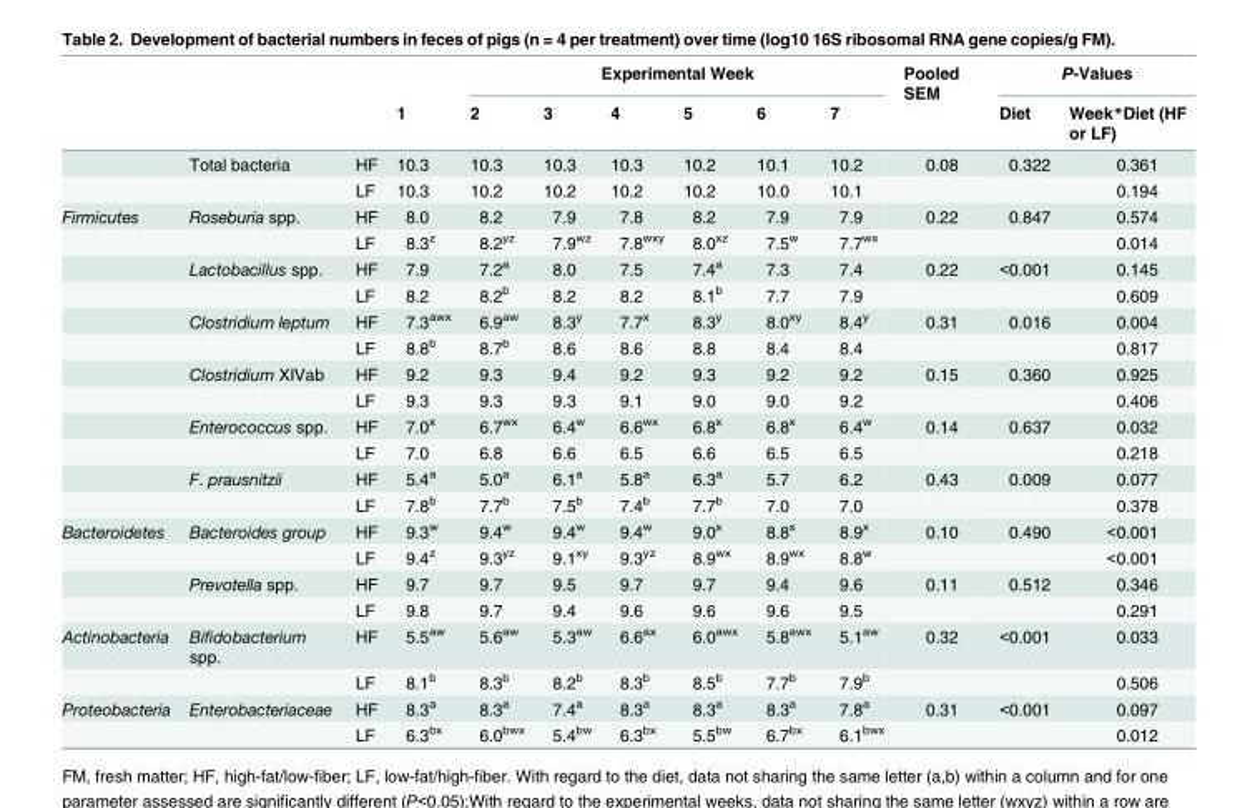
<table><thead><tr><td rowspan="2"></td><td rowspan="2"></td><td rowspan="2"></td><td rowspan="2">1</td><td colspan="6">Experimental Week</td><td rowspan="2">Pooled SEM</td><td colspan="2">P-Values</td></tr><tr><td>2</td><td>3</td><td>4</td><td>5</td><td>6</td><td>7</td><td>Diet</td><td>Week*Diet (HF or LF)</td></tr></thead><tbody><tr><td></td><td>Total bacteria</td><td>HF</td><td>10.3</td><td>10.3</td><td>10.3</td><td>10.3</td><td>10.2</td><td>10.1</td><td>10.2</td><td>0.08</td><td>0.322</td><td>0.361</td></tr><tr><td></td><td></td><td>LF</td><td>10.3</td><td>10.2</td><td>10.2</td><td>10.2</td><td>10.2</td><td>10.0</td><td>10.1</td><td></td><td></td><td>0.194</td></tr><tr><td rowspan="12">Firmicutes</td><td>Roseburia spp.</td><td>HF</td><td>8.0</td><td>8.2</td><td>7.9</td><td>7.8</td><td>8.2</td><td>7.9</td><td>7.9</td><td>0.22</td><td>0.847</td><td>0.574</td></tr><tr><td></td><td>LF</td><td>8.3<sup>z</sup></td><td>8.2<sup>yz</sup></td><td>7.9<sup>wz</sup></td><td>7.8<sup>wxy</sup></td><td>8.0<sup>xz</sup></td><td>7.5<sup>w</sup></td><td>7.7<sup>wx</sup></td><td></td><td></td><td>0.014</td></tr><tr><td>Lactobacillus spp.</td><td>HF</td><td>7.9</td><td>7.2<sup>a</sup></td><td>8.0</td><td>7.5</td><td>7.4<sup>a</sup></td><td>7.3</td><td>7.4</td><td>0.22</td><td>&lt;0.001</td><td>0.145</td></tr><tr><td></td><td>LF</td><td>8.2</td><td>8.2<sup>b</sup></td><td>8.2</td><td>8.2</td><td>8.1<sup>b</sup></td><td>7.7</td><td>7.9</td><td></td><td></td><td>0.609</td></tr><tr><td>Clostridium leptum</td><td>HF</td><td>7.3<sup>awx</sup></td><td>6.9<sup>aw</sup></td><td>8.3<sup>y</sup></td><td>7.7<sup>x</sup></td><td>8.3<sup>y</sup></td><td>8.0<sup>xy</sup></td><td>8.4<sup>y</sup></td><td>0.31</td><td>0.016</td><td>0.004</td></tr><tr><td></td><td>LF</td><td>8.8<sup>b</sup></td><td>8.7<sup>b</sup></td><td>8.6</td><td>8.6</td><td>8.8</td><td>8.4</td><td>8.4</td><td></td><td></td><td>0.817</td></tr><tr><td>Clostridium XIVab</td><td>HF</td><td>9.2</td><td>9.3</td><td>9.4</td><td>9.2</td><td>9.3</td><td>9.2</td><td>9.2</td><td>0.15</td><td>0.360</td><td>0.925</td></tr><tr><td></td><td>LF</td><td>9.3</td><td>9.3</td><td>9.3</td><td>9.1</td><td>9.0</td><td>9.0</td><td>9.2</td><td></td><td></td><td>0.406</td></tr><tr><td>Enterococcus spp.</td><td>HF</td><td>7.0<sup>x</sup></td><td>6.7<sup>wx</sup></td><td>6.4<sup>w</sup></td><td>6.6<sup>wx</sup></td><td>6.8<sup>x</sup></td><td>6.8<sup>x</sup></td><td>6.4<sup>w</sup></td><td>0.14</td><td>0.637</td><td>0.032</td></tr><tr><td></td><td>LF</td><td>7.0</td><td>6.8</td><td>6.6</td><td>6.5</td><td>6.6</td><td>6.5</td><td>6.5</td><td></td><td></td><td>0.218</td></tr><tr><td>F. prausnitzii</td><td>HF</td><td>5.4<sup>a</sup></td><td>5.0<sup>a</sup></td><td>6.1<sup>a</sup></td><td>5.8<sup>a</sup></td><td>6.3<sup>a</sup></td><td>5.7</td><td>6.2</td><td>0.43</td><td>0.009</td><td>0.077</td></tr><tr><td></td><td>LF</td><td>7.8<sup>b</sup></td><td>7.7<sup>b</sup></td><td>7.5<sup>b</sup></td><td>7.4<sup>b</sup></td><td>7.7<sup>b</sup></td><td>7.0</td><td>7.0</td><td></td><td></td><td>0.378</td></tr><tr><td rowspan="4">Bacteroidetes</td><td>Bacteroides group</td><td>HF</td><td>9.3<sup>w</sup></td><td>9.4<sup>w</sup></td><td>9.4<sup>w</sup></td><td>9.4<sup>w</sup></td><td>9.0<sup>x</sup></td><td>8.8<sup>x</sup></td><td>8.9<sup>x</sup></td><td>0.10</td><td>0.490</td><td>&lt;0.001</td></tr><tr><td></td><td>LF</td><td>9.4<sup>z</sup></td><td>9.3<sup>yz</sup></td><td>9.1<sup>xy</sup></td><td>9.3<sup>yz</sup></td><td>8.9<sup>wx</sup></td><td>8.9<sup>wx</sup></td><td>8.8<sup>w</sup></td><td></td><td></td><td>&lt;0.001</td></tr><tr><td>Prevotella spp.</td><td>HF</td><td>9.7</td><td>9.7</td><td>9.5</td><td>9.7</td><td>9.7</td><td>9.4</td><td>9.6</td><td>0.11</td><td>0.512</td><td>0.346</td></tr><tr><td></td><td>LF</td><td>9.8</td><td>9.7</td><td>9.4</td><td>9.6</td><td>9.6</td><td>9.6</td><td>9.5</td><td></td><td></td><td>0.291</td></tr><tr><td rowspan="2">Actinobacteria</td><td>Bifidobacterium spp.</td><td>HF</td><td>5.5<sup>aw</sup></td><td>5.6<sup>aw</sup></td><td>5.3<sup>aw</sup></td><td>6.6<sup>ax</sup></td><td>6.0<sup>awx</sup></td><td>5.8<sup>awx</sup></td><td>5.1<sup>aw</sup></td><td>0.32</td><td>&lt;0.001</td><td>0.033</td></tr><tr><td></td><td>LF</td><td>8.1<sup>b</sup></td><td>8.3<sup>b</sup></td><td>8.2<sup>b</sup></td><td>8.3<sup>b</sup></td><td>8.5<sup>b</sup></td><td>7.7<sup>b</sup></td><td>7.9<sup>b</sup></td><td></td><td></td><td>0.506</td></tr><tr><td rowspan="2">Proteobacteria</td><td>Enterobacteriaceae</td><td>HF</td><td>8.3<sup>a</sup></td><td>8.3<sup>a</sup></td><td>7.4<sup>a</sup></td><td>8.3<sup>a</sup></td><td>8.3<sup>a</sup></td><td>8.3<sup>a</sup></td><td>7.8<sup>a</sup></td><td>0.31</td><td>&lt;0.001</td><td>0.097</td></tr><tr><td></td><td>LF</td><td>6.3<sup>bx</sup></td><td>6.0<sup>bwx</sup></td><td>5.4<sup>bw</sup></td><td>6.3<sup>bx</sup></td><td>5.5<sup>bw</sup></td><td>6.7<sup>bx</sup></td><td>6.1<sup>bwx</sup></td><td></td><td></td><td>0.012</td></tr></tbody></table>